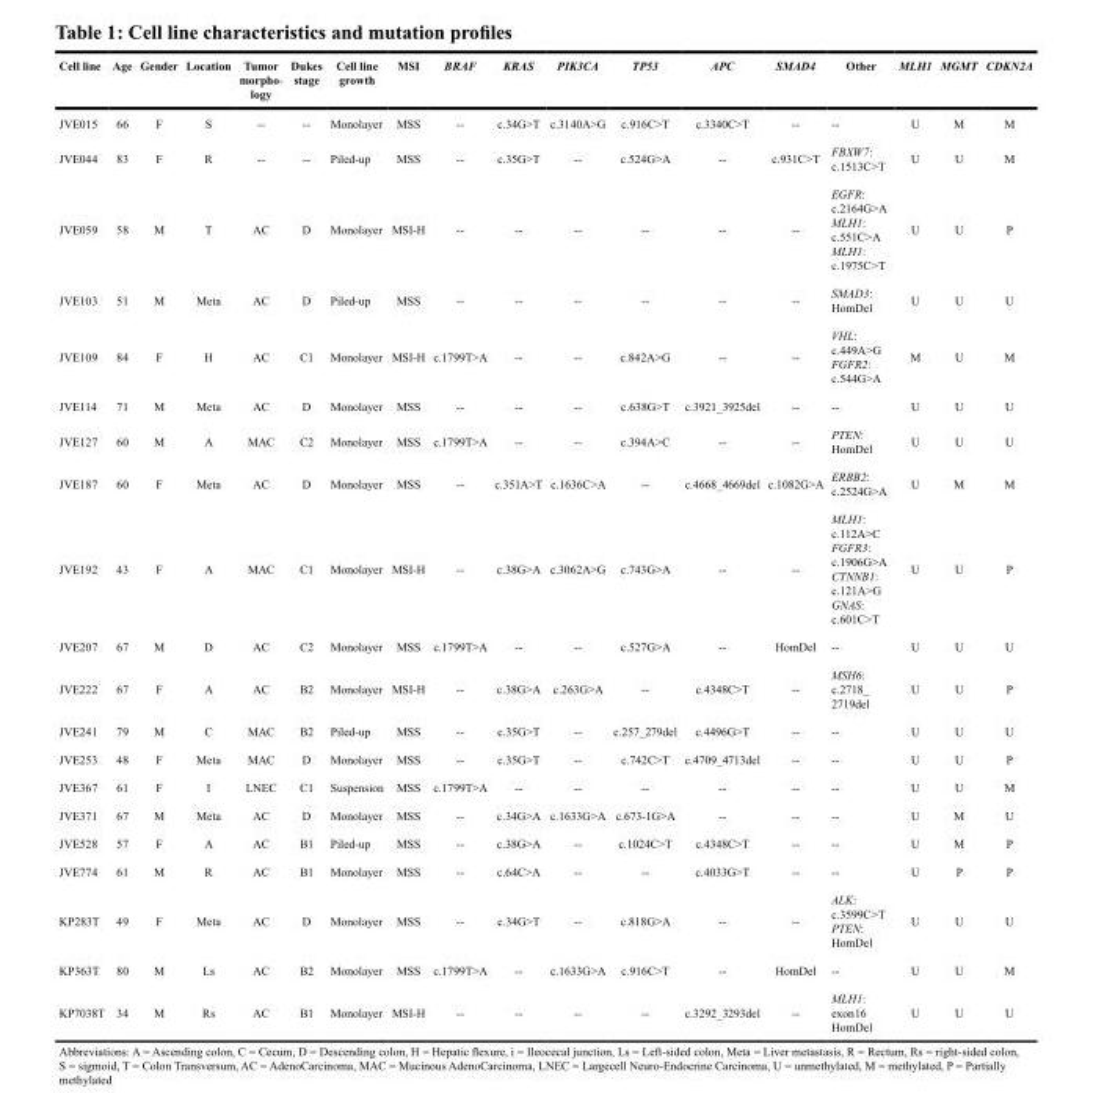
<table><thead><tr><td>Cell line</td><td>Age</td><td>Gender</td><td>Location</td><td>Tumor morpho- logy</td><td>Dukes stage</td><td>Cell line growth</td><td>MSI</td><td>BRAF</td><td>KRAS</td><td>PIK3CA</td><td>TP53</td><td>APC</td><td>SMAD4</td><td>Other</td><td>MLH1</td><td>MGMT</td><td>CDKN2A</td></tr></thead><tbody><tr><td>JVE015</td><td>66</td><td>F</td><td>S</td><td>--</td><td>--</td><td>Monolayer</td><td>MSS</td><td>--</td><td>c.34G&gt;T</td><td>c.3140A&gt;G</td><td>c.916C&gt;T</td><td>c.3340C&gt;T</td><td>--</td><td>--</td><td>U</td><td>M</td><td>M</td></tr><tr><td>JVE044</td><td>83</td><td>F</td><td>R</td><td>--</td><td>--</td><td>Piled-up</td><td>MSS</td><td>--</td><td>c.35G&gt;T</td><td>--</td><td>c.524G&gt;A</td><td>--</td><td>c.931C&gt;T</td><td>FBXW7: c.1513C&gt;T</td><td>U</td><td>U</td><td>M</td></tr><tr><td>JVE059</td><td>58</td><td>M</td><td>T</td><td>AC</td><td>D</td><td>Monolayer</td><td>MSI-H</td><td>--</td><td>--</td><td>--</td><td>--</td><td>--</td><td>--</td><td>EGFR: c.2164G&gt;A MLH1: c.551C&gt;A MLH1: c.1975C&gt;T</td><td>U</td><td>U</td><td>P</td></tr><tr><td>JVE103</td><td>51</td><td>M</td><td>Meta</td><td>AC</td><td>D</td><td>Piled-up</td><td>MSS</td><td>--</td><td>--</td><td>--</td><td>--</td><td>--</td><td>--</td><td>SMAD3: HomDel</td><td>U</td><td>U</td><td>U</td></tr><tr><td>JVE109</td><td>84</td><td>F</td><td>H</td><td>AC</td><td>C1</td><td>Monolayer</td><td>MSI-H</td><td>c.1799T&gt;A</td><td>--</td><td>--</td><td>c.842A&gt;G</td><td>--</td><td>--</td><td>VHL: c.449A&gt;G FGFR2: c.544G&gt;A</td><td>M</td><td>U</td><td>M</td></tr><tr><td>JVE114</td><td>71</td><td>M</td><td>Meta</td><td>AC</td><td>D</td><td>Monolayer</td><td>MSS</td><td>--</td><td>--</td><td>--</td><td>c.638G&gt;T</td><td>c.3921_3925del</td><td>--</td><td>--</td><td>U</td><td>U</td><td>U</td></tr><tr><td>JVE127</td><td>60</td><td>M</td><td>A</td><td>MAC</td><td>C2</td><td>Monolayer</td><td>MSS</td><td>c.1799T&gt;A</td><td>--</td><td>--</td><td>c.394A&gt;C</td><td>--</td><td>--</td><td>PTEN: HomDel</td><td>U</td><td>U</td><td>U</td></tr><tr><td>JVE187</td><td>60</td><td>F</td><td>Meta</td><td>AC</td><td>D</td><td>Monolayer</td><td>MSS</td><td>--</td><td>c.351A&gt;T</td><td>c.1636C&gt;A</td><td>--</td><td>c.4668_4669del</td><td>c.1082G&gt;A</td><td>ERBB2: c.2524G&gt;A</td><td>U</td><td>M</td><td>M</td></tr><tr><td>JVE192</td><td>43</td><td>F</td><td>A</td><td>MAC</td><td>C1</td><td>Monolayer</td><td>MSI-H</td><td>--</td><td>c.38G&gt;A</td><td>c.3062A&gt;G</td><td>c.743G&gt;A</td><td>--</td><td>--</td><td>MLH1: c.112A&gt;C FGFR3: c.1906G&gt;A CTNNB1: c.121A&gt;G GNAS: c.601C&gt;T</td><td>U</td><td>U</td><td>P</td></tr><tr><td>JVE207</td><td>67</td><td>M</td><td>D</td><td>AC</td><td>C2</td><td>Monolayer</td><td>MSS</td><td>c.1799T&gt;A</td><td>--</td><td>--</td><td>c.527G&gt;A</td><td>--</td><td>HomDel</td><td>--</td><td>U</td><td>U</td><td>U</td></tr><tr><td>JVE222</td><td>67</td><td>F</td><td>A</td><td>AC</td><td>B2</td><td>Monolayer</td><td>MSI-H</td><td>--</td><td>c.38G&gt;A</td><td>c.263G&gt;A</td><td>--</td><td>c.4348C&gt;T</td><td>--</td><td>MSH6: c.2718_ 2719del</td><td>U</td><td>U</td><td>P</td></tr><tr><td>JVE241</td><td>79</td><td>M</td><td>C</td><td>MAC</td><td>B2</td><td>Piled-up</td><td>MSS</td><td>--</td><td>c.35G&gt;T</td><td>--</td><td>c.257_279del</td><td>c.4496G&gt;T</td><td>--</td><td>--</td><td>U</td><td>U</td><td>U</td></tr><tr><td>JVE253</td><td>48</td><td>F</td><td>Meta</td><td>MAC</td><td>D</td><td>Monolayer</td><td>MSS</td><td>--</td><td>c.35G&gt;T</td><td>--</td><td>c.742C&gt;T</td><td>c.4709_4713del</td><td>--</td><td>--</td><td>U</td><td>U</td><td>P</td></tr><tr><td>JVE367</td><td>61</td><td>F</td><td>I</td><td>LNEC</td><td>C1</td><td>Suspension</td><td>MSS</td><td>c.1799T&gt;A</td><td>--</td><td>--</td><td>--</td><td>--</td><td>--</td><td>--</td><td>U</td><td>U</td><td>M</td></tr><tr><td>JVE371</td><td>67</td><td>M</td><td>Meta</td><td>AC</td><td>D</td><td>Monolayer</td><td>MSS</td><td>--</td><td>c.34G&gt;A</td><td>c.1633G&gt;A</td><td>c.673-1G&gt;A</td><td>--</td><td>--</td><td>--</td><td>U</td><td>M</td><td>U</td></tr><tr><td>JVE528</td><td>57</td><td>F</td><td>A</td><td>AC</td><td>B1</td><td>Piled-up</td><td>MSS</td><td>--</td><td>c.38G&gt;A</td><td>--</td><td>c.1024C&gt;T</td><td>c.4348C&gt;T</td><td>--</td><td>--</td><td>U</td><td>M</td><td>P</td></tr><tr><td>JVE774</td><td>61</td><td>M</td><td>R</td><td>AC</td><td>B1</td><td>Monolayer</td><td>MSS</td><td>--</td><td>c.64C&gt;A</td><td>--</td><td>--</td><td>c.4033G&gt;T</td><td>--</td><td>--</td><td>U</td><td>P</td><td>P</td></tr><tr><td>KP283T</td><td>49</td><td>F</td><td>Meta</td><td>AC</td><td>D</td><td>Monolayer</td><td>MSS</td><td>--</td><td>c.34G&gt;T</td><td>--</td><td>c.818G&gt;A</td><td>--</td><td>--</td><td>ALK: c.3599C&gt;T PTEN: HomDel</td><td>U</td><td>U</td><td>U</td></tr><tr><td>KP363T</td><td>80</td><td>M</td><td>Ls</td><td>AC</td><td>B2</td><td>Monolayer</td><td>MSS</td><td>c.1799T&gt;A</td><td>--</td><td>c.1633G&gt;A</td><td>c.916C&gt;T</td><td>--</td><td>HomDel</td><td>--</td><td>U</td><td>U</td><td>M</td></tr><tr><td>KP7038T</td><td>34</td><td>M</td><td>Rs</td><td>AC</td><td>B1</td><td>Monolayer</td><td>MSI-H</td><td>--</td><td>--</td><td>--</td><td>--</td><td>c.3292_3293del</td><td>--</td><td>MLH1: exon16 HomDel</td><td>U</td><td>U</td><td>U</td></tr></tbody></table>